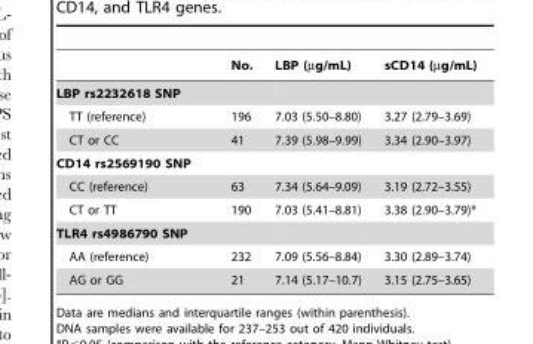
<table><thead><tr><td></td><td>No.</td><td>LBP (µg/mL)</td><td>sCD14 (µg/mL)</td></tr></thead><tbody><tr><td colspan="4">LBP rs2232618 SNP</td></tr><tr><td>TT (reference)</td><td>196</td><td>7.03 (5.50–8.80)</td><td>3.27 (2.79–3.69)</td></tr><tr><td>CT or CC</td><td>41</td><td>7.39 (5.98–9.99)</td><td>3.34 (2.90–3.97)</td></tr><tr><td colspan="4">CD14 rs2569190 SNP</td></tr><tr><td>CC (reference)</td><td>63</td><td>7.34 (5.64–9.09)</td><td>3.19 (2.72–3.55)</td></tr><tr><td>CT or TT</td><td>190</td><td>7.03 (5.41–8.81)</td><td>3.38 (2.90–3.79)*</td></tr><tr><td colspan="4">TLR4 rs4986790 SNP</td></tr><tr><td>AA (reference)</td><td>232</td><td>7.09 (5.56–8.84)</td><td>3.30 (2.89–3.74)</td></tr><tr><td>AG or GG</td><td>21</td><td>7.14 (5.17–10.7)</td><td>3.15 (2.75–3.65)</td></tr></tbody></table>